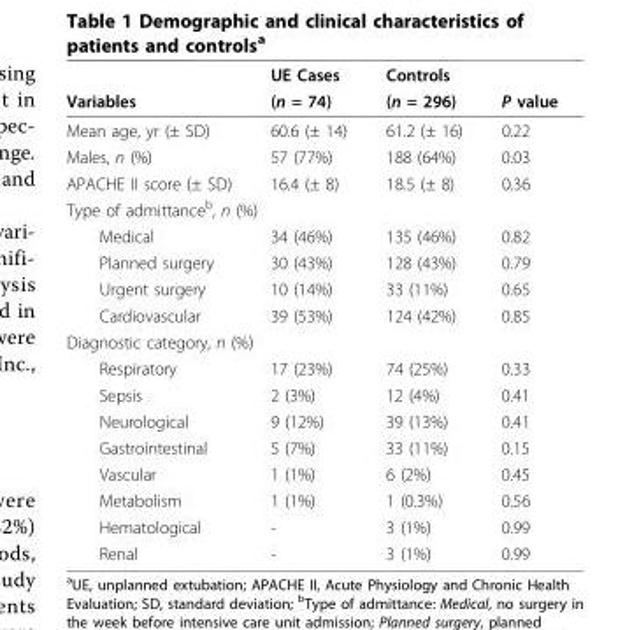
<table><thead><tr><td rowspan="2">Variables</td><td rowspan="2">UE Cases (n = 74)</td><td rowspan="2">Controls (n = 296)</td><td rowspan="2">P value</td></tr><tr></tr></thead><tbody><tr><td>Mean age, yr (± SD)</td><td>60.6 (± 14)</td><td>61.2 (± 16)</td><td>0.22</td></tr><tr><td>Males, n (%)</td><td>57 (77%)</td><td>188 (64%)</td><td>0.03</td></tr><tr><td>APACHE II score (± SD)</td><td>16.4 (± 8)</td><td>18.5 (± 8)</td><td>0.36</td></tr><tr><td colspan="4">Type of admittance<sup>b</sup>, n (%)</td></tr><tr><td>Medical</td><td>34 (46%)</td><td>135 (46%)</td><td>0.82</td></tr><tr><td>Planned surgery</td><td>30 (43%)</td><td>128 (43%)</td><td>0.79</td></tr><tr><td>Urgent surgery</td><td>10 (14%)</td><td>33 (11%)</td><td>0.65</td></tr><tr><td>Cardiovascular</td><td>39 (53%)</td><td>124 (42%)</td><td>0.85</td></tr><tr><td colspan="4">Diagnostic category, n (%)</td></tr><tr><td>Respiratory</td><td>17 (23%)</td><td>74 (25%)</td><td>0.33</td></tr><tr><td>Sepsis</td><td>2 (3%)</td><td>12 (4%)</td><td>0.41</td></tr><tr><td>Neurological</td><td>9 (12%)</td><td>39 (13%)</td><td>0.41</td></tr><tr><td>Gastrointestinal</td><td>5 (7%)</td><td>33 (11%)</td><td>0.15</td></tr><tr><td>Vascular</td><td>1 (1%)</td><td>6 (2%)</td><td>0.45</td></tr><tr><td>Metabolism</td><td>1 (1%)</td><td>1 (0.3%)</td><td>0.56</td></tr><tr><td>Hematological</td><td>-</td><td>3 (1%)</td><td>0.99</td></tr><tr><td>Renal</td><td>-</td><td>3 (1%)</td><td>0.99</td></tr></tbody></table>